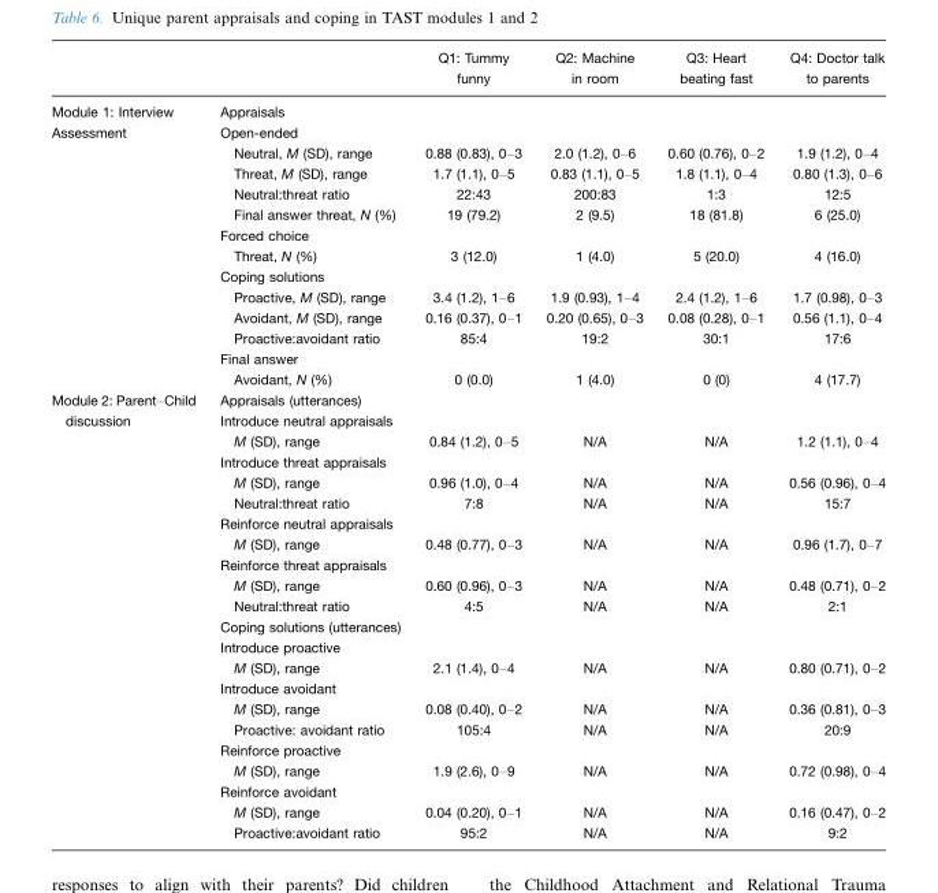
<table><thead><tr><td></td><td></td><td>Q1: Tummy funny</td><td>Q2: Machine in room</td><td>Q3: Heart beating fast</td><td>Q4: Doctor talk to parents</td></tr></thead><tbody><tr><td>Module 1: Interview</td><td>Appraisals</td><td></td><td></td><td></td><td></td></tr><tr><td rowspan="13">Assessment</td><td>Open-ended</td><td></td><td></td><td></td><td></td></tr><tr><td>Neutral, M (SD), range</td><td>0.88 (0.83), 0–3</td><td>2.0 (1.2), 0–6</td><td>0.60 (0.76), 0–2</td><td>1.9 (1.2), 0–4</td></tr><tr><td>Threat, M (SD), range</td><td>1.7 (1.1), 0–5</td><td>0.83 (1.1), 0–5</td><td>1.8 (1.1), 0–4</td><td>0.80 (1.3), 0–6</td></tr><tr><td>Neutral:threat ratio</td><td>22:43</td><td>200:83</td><td>1:3</td><td>12:5</td></tr><tr><td>Final answer threat, N (%)</td><td>19 (79.2)</td><td>2 (9.5)</td><td>18 (81.8)</td><td>6 (25.0)</td></tr><tr><td>Forced choice</td><td></td><td></td><td></td><td></td></tr><tr><td>Threat, N (%)</td><td>3 (12.0)</td><td>1 (4.0)</td><td>5 (20.0)</td><td>4 (16.0)</td></tr><tr><td>Coping solutions</td><td></td><td></td><td></td><td></td></tr><tr><td>Proactive, M (SD), range</td><td>3.4 (1.2), 1–6</td><td>1.9 (0.93), 1–4</td><td>2.4 (1.2), 1–6</td><td>1.7 (0.98), 0–3</td></tr><tr><td>Avoidant, M (SD), range</td><td>0.16 (0.37), 0–1</td><td>0.20 (0.65), 0–3</td><td>0.08 (0.28), 0–1</td><td>0.56 (1.1), 0–4</td></tr><tr><td>Proactive:avoidant ratio</td><td>85:4</td><td>19:2</td><td>30:1</td><td>17:6</td></tr><tr><td>Final answer</td><td></td><td></td><td></td><td></td></tr><tr><td>Avoidant, N (%)</td><td>0 (0.0)</td><td>1 (4.0)</td><td>0 (0)</td><td>4 (17.7)</td></tr><tr><td rowspan="22">Module 2: Parent–Child discussion</td><td>Appraisals (utterances)</td><td></td><td></td><td></td><td></td></tr><tr><td>Introduce neutral appraisals</td><td></td><td></td><td></td><td></td></tr><tr><td>M (SD), range</td><td>0.84 (1.2), 0–5</td><td>N/A</td><td>N/A</td><td>1.2 (1.1), 0–4</td></tr><tr><td>Introduce threat appraisals</td><td></td><td></td><td></td><td></td></tr><tr><td>M (SD), range</td><td>0.96 (1.0), 0–4</td><td>N/A</td><td>N/A</td><td>0.56 (0.96), 0–4</td></tr><tr><td>Neutral:threat ratio</td><td>7:8</td><td>N/A</td><td>N/A</td><td>15:7</td></tr><tr><td>Reinforce neutral appraisals</td><td></td><td></td><td></td><td></td></tr><tr><td>M (SD), range</td><td>0.48 (0.77), 0–3</td><td>N/A</td><td>N/A</td><td>0.96 (1.7), 0–7</td></tr><tr><td>Reinforce threat appraisals</td><td></td><td></td><td></td><td></td></tr><tr><td>M (SD), range</td><td>0.60 (0.96), 0–3</td><td>N/A</td><td>N/A</td><td>0.48 (0.71), 0–2</td></tr><tr><td>Neutral:threat ratio</td><td>4:5</td><td>N/A</td><td>N/A</td><td>2:1</td></tr><tr><td>Coping solutions (utterances)</td><td></td><td></td><td></td><td></td></tr><tr><td>Introduce proactive</td><td></td><td></td><td></td><td></td></tr><tr><td>M (SD), range</td><td>2.1 (1.4), 0–4</td><td>N/A</td><td>N/A</td><td>0.80 (0.71), 0–2</td></tr><tr><td>Introduce avoidant</td><td></td><td></td><td></td><td></td></tr><tr><td>M (SD), range</td><td>0.08 (0.40), 0–2</td><td>N/A</td><td>N/A</td><td>0.36 (0.81), 0–3</td></tr><tr><td>Proactive: avoidant ratio</td><td>105:4</td><td>N/A</td><td>N/A</td><td>20:9</td></tr><tr><td>Reinforce proactive</td><td></td><td></td><td></td><td></td></tr><tr><td>M (SD), range</td><td>1.9 (2.6), 0–9</td><td>N/A</td><td>N/A</td><td>0.72 (0.98), 0–4</td></tr><tr><td>Reinforce avoidant</td><td></td><td></td><td></td><td></td></tr><tr><td>M (SD), range</td><td>0.04 (0.20), 0–1</td><td>N/A</td><td>N/A</td><td>0.16 (0.47), 0–2</td></tr><tr><td>Proactive:avoidant ratio</td><td>95:2</td><td>N/A</td><td>N/A</td><td>9:2</td></tr></tbody></table>